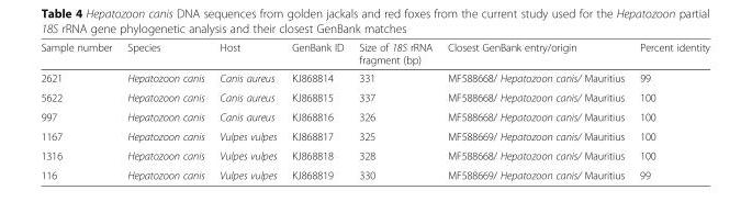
<table><thead><tr><td>Sample number</td><td>Species</td><td>Host</td><td>GenBank ID</td><td>Size of 18S rRNA fragment (bp)</td><td>Closest GenBank entry/origin</td><td>Percent identity</td></tr></thead><tbody><tr><td>2621</td><td>Hepatozoon canis</td><td>Canis aureus</td><td>KJ868814</td><td>331</td><td>MF588668/ Hepatozoon canis/ Mauritius</td><td>99</td></tr><tr><td>5622</td><td>Hepatozoon canis</td><td>Canis aureus</td><td>KJ868815</td><td>337</td><td>MF588668/ Hepatozoon canis/ Mauritius</td><td>100</td></tr><tr><td>997</td><td>Hepatozoon canis</td><td>Canis aureus</td><td>KJ868816</td><td>326</td><td>MF588668/ Hepatozoon canis/ Mauritius</td><td>100</td></tr><tr><td>1167</td><td>Hepatozoon canis</td><td>Vulpes vulpes</td><td>KJ868817</td><td>325</td><td>MF588669/ Hepatozoon canis/ Mauritius</td><td>100</td></tr><tr><td>1316</td><td>Hepatozoon canis</td><td>Vulpes vulpes</td><td>KJ868818</td><td>328</td><td>MF588668/ Hepatozoon canis/ Mauritius</td><td>100</td></tr><tr><td>116</td><td>Hepatozoon canis</td><td>Vulpes vulpes</td><td>KJ868819</td><td>330</td><td>MF588669/ Hepatozoon canis/ Mauritius</td><td>99</td></tr></tbody></table>